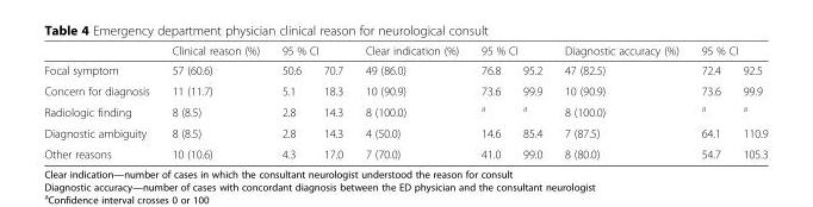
<table><thead><tr><td rowspan="2">Focal symptom</td><td rowspan="2">Clinical reason (%) 57 (60.6)</td><td colspan="2">95 % CI</td><td rowspan="2">Clear indication (%) 49 (86.0)</td><td colspan="2">95 % CI</td><td rowspan="2">Diagnostic accuracy (%) 47 (82.5)</td><td colspan="2">95 % CI</td></tr><tr><td>50.6</td><td>70.7</td><td>76.8</td><td>95.2</td><td>72.4</td><td>92.5</td></tr></thead><tbody><tr><td>Concern for diagnosis</td><td>11 (11.7)</td><td>5.1</td><td>18.3</td><td>10 (90.9)</td><td>73.6</td><td>99.9</td><td>10 (90.9)</td><td>73.6</td><td>99.9</td></tr><tr><td>Radiologic finding</td><td>8 (8.5)</td><td>2.8</td><td>14.3</td><td>8 (100.0)</td><td><sup>a</sup></td><td><sup>a</sup></td><td>8 (100.0)</td><td><sup>a</sup></td><td><sup>a</sup></td></tr><tr><td>Diagnostic ambiguity</td><td>8 (8.5)</td><td>2.8</td><td>14.3</td><td>4 (50.0)</td><td>14.6</td><td>85.4</td><td>7 (87.5)</td><td>64.1</td><td>110.9</td></tr><tr><td>Other reasons</td><td>10 (10.6)</td><td>4.3</td><td>17.0</td><td>7 (70.0)</td><td>41.0</td><td>99.0</td><td>8 (80.0)</td><td>54.7</td><td>105.3</td></tr></tbody></table>